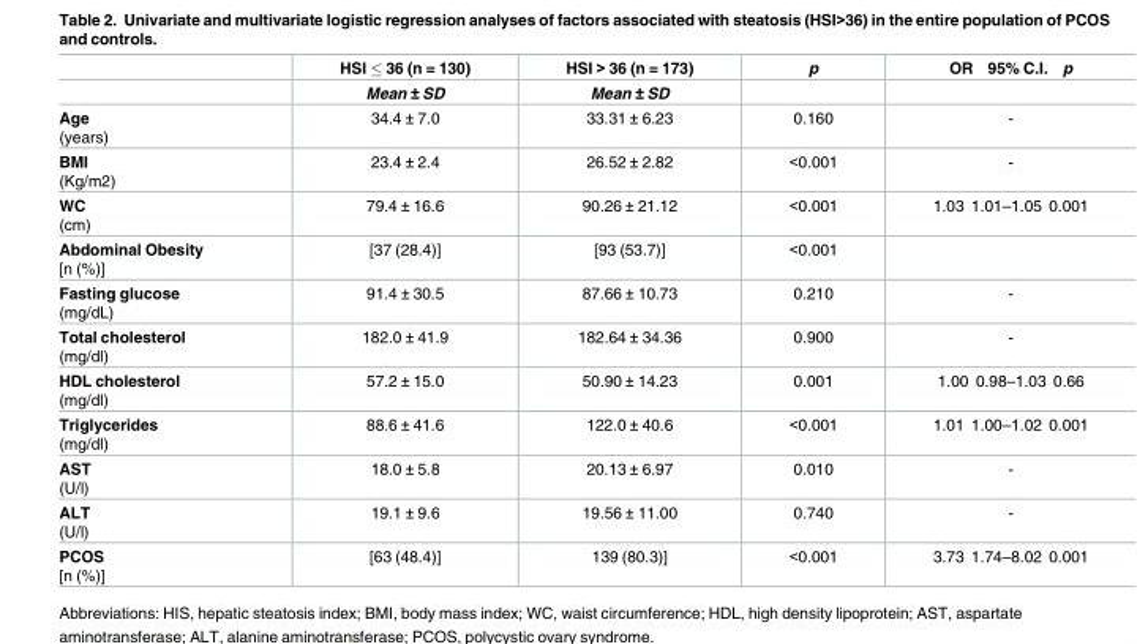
<table><thead><tr><td rowspan="2"></td><td rowspan="2">HSI ≤ 36 (n = 130) Mean ± SD</td><td rowspan="2">HSI &gt; 36 (n = 173) Mean ± SD</td><td rowspan="2">p</td><td rowspan="2">OR 95% C.I. p</td></tr><tr></tr></thead><tbody><tr><td>Age (years)</td><td>34.4 ± 7.0</td><td>33.31 ± 6.23</td><td>0.160</td><td>-</td></tr><tr><td>BMI (Kg/m2)</td><td>23.4 ± 2.4</td><td>26.52 ± 2.82</td><td>&lt;0.001</td><td>-</td></tr><tr><td>WC (cm)</td><td>79.4 ± 16.6</td><td>90.26 ± 21.12</td><td>&lt;0.001</td><td>1.03 1.01–1.05 0.001</td></tr><tr><td>Abdominal Obesity [n (%)]</td><td>[37 (28.4)]</td><td>[93 (53.7)]</td><td>&lt;0.001</td><td></td></tr><tr><td>Fasting glucose (mg/dL)</td><td>91.4 ± 30.5</td><td>87.66 ± 10.73</td><td>0.210</td><td>-</td></tr><tr><td>Total cholesterol (mg/dl)</td><td>182.0 ± 41.9</td><td>182.64 ± 34.36</td><td>0.900</td><td>-</td></tr><tr><td>HDL cholesterol (mg/dl)</td><td>57.2 ± 15.0</td><td>50.90 ± 14.23</td><td>0.001</td><td>1.00 0.98–1.03 0.66</td></tr><tr><td>Triglycerides (mg/dl)</td><td>88.6 ± 41.6</td><td>122.0 ± 40.6</td><td>&lt;0.001</td><td>1.01 1.00–1.02 0.001</td></tr><tr><td>AST (U/l)</td><td>18.0 ± 5.8</td><td>20.13 ± 6.97</td><td>0.010</td><td>-</td></tr><tr><td>ALT (U/l)</td><td>19.1 ± 9.6</td><td>19.56 ± 11.00</td><td>0.740</td><td>-</td></tr><tr><td>PCOS [n (%)]</td><td>[63 (48.4)]</td><td>139 (80.3)]</td><td>&lt;0.001</td><td>3.73 1.74–8.02 0.001</td></tr></tbody></table>